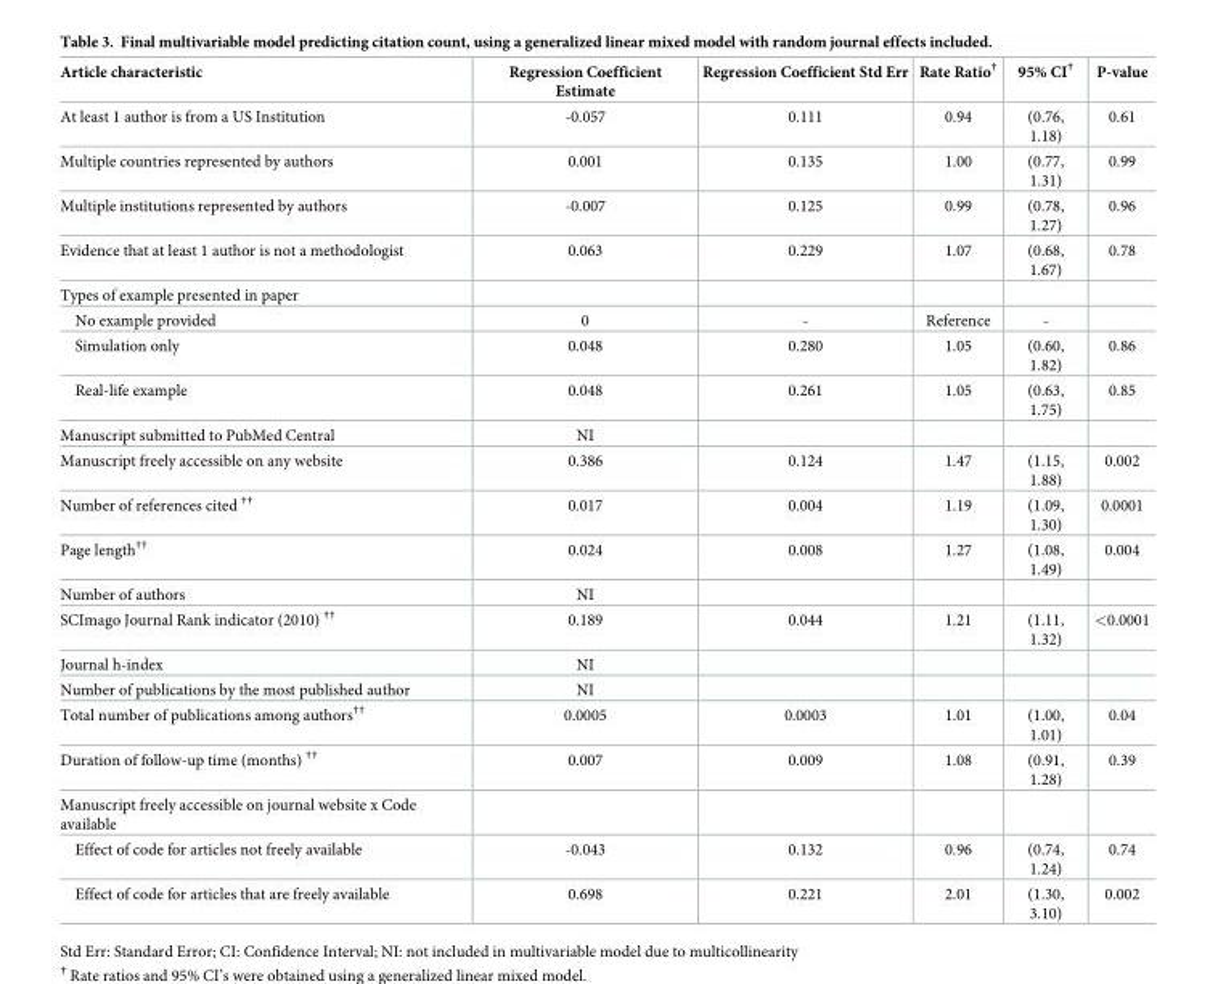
<table><thead><tr><td>Article characteristic</td><td>Regression Coefficient Estimate</td><td>Regression Coefficient Std Err</td><td>Rate Ratio<sup>†</sup></td><td>95% CI<sup>†</sup></td><td>P-value</td></tr></thead><tbody><tr><td>At least 1 author is from a US Institution</td><td>-0.057</td><td>0.111</td><td>0.94</td><td>(0.76, 1.18)</td><td>0.61</td></tr><tr><td>Multiple countries represented by authors</td><td>0.001</td><td>0.135</td><td>1.00</td><td>(0.77, 1.31)</td><td>0.99</td></tr><tr><td>Multiple institutions represented by authors</td><td>-0.007</td><td>0.125</td><td>0.99</td><td>(0.78, 1.27)</td><td>0.96</td></tr><tr><td>Evidence that at least 1 author is not a methodologist</td><td>0.063</td><td>0.229</td><td>1.07</td><td>(0.68, 1.67)</td><td>0.78</td></tr><tr><td colspan="6">Types of example presented in paper</td></tr><tr><td>No example provided</td><td>0</td><td>-</td><td>Reference</td><td>-</td><td></td></tr><tr><td>Simulation only</td><td>0.048</td><td>0.280</td><td>1.05</td><td>(0.60, 1.82)</td><td>0.86</td></tr><tr><td>Real-life example</td><td>0.048</td><td>0.261</td><td>1.05</td><td>(0.63, 1.75)</td><td>0.85</td></tr><tr><td>Manuscript submitted to PubMed Central</td><td>NI</td><td></td><td></td><td></td><td></td></tr><tr><td>Manuscript freely accessible on any website</td><td>0.386</td><td>0.124</td><td>1.47</td><td>(1.15, 1.88)</td><td>0.002</td></tr><tr><td>Number of references cited <sup>††</sup></td><td>0.017</td><td>0.004</td><td>1.19</td><td>(1.09, 1.30)</td><td>0.0001</td></tr><tr><td>Page length<sup>††</sup></td><td>0.024</td><td>0.008</td><td>1.27</td><td>(1.08, 1.49)</td><td>0.004</td></tr><tr><td>Number of authors</td><td>NI</td><td></td><td></td><td></td><td></td></tr><tr><td>SCImago Journal Rank indicator (2010) <sup>††</sup></td><td>0.189</td><td>0.044</td><td>1.21</td><td>(1.11, 1.32)</td><td>&lt;0.0001</td></tr><tr><td>Journal h-index</td><td>NI</td><td></td><td></td><td></td><td></td></tr><tr><td>Number of publications by the most published author</td><td>NI</td><td></td><td></td><td></td><td></td></tr><tr><td>Total number of publications among authors<sup>††</sup></td><td>0.0005</td><td>0.0003</td><td>1.01</td><td>(1.00, 1.01)</td><td>0.04</td></tr><tr><td>Duration of follow-up time (months) <sup>††</sup></td><td>0.007</td><td>0.009</td><td>1.08</td><td>(0.91, 1.28)</td><td>0.39</td></tr><tr><td colspan="6">Manuscript freely accessible on journal website x Code available</td></tr><tr><td>Effect of code for articles not freely available</td><td>-0.043</td><td>0.132</td><td>0.96</td><td>(0.74, 1.24)</td><td>0.74</td></tr><tr><td>Effect of code for articles that are freely available</td><td>0.698</td><td>0.221</td><td>2.01</td><td>(1.30, 3.10)</td><td>0.002</td></tr></tbody></table>